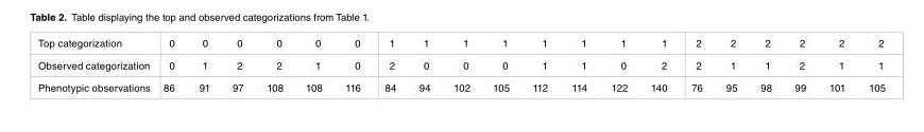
<table><tbody><tr><td>Top categorization</td><td>0</td><td>0</td><td>0</td><td>0</td><td>0</td><td>0</td><td>1</td><td>1</td><td>1</td><td>1</td><td>1</td><td>1</td><td>1</td><td>1</td><td>2</td><td>2</td><td>2</td><td>2</td><td>2</td><td>2</td></tr><tr><td>Observed categorization</td><td>0</td><td>1</td><td>2</td><td>2</td><td>1</td><td>0</td><td>2</td><td>0</td><td>0</td><td>0</td><td>1</td><td>1</td><td>0</td><td>2</td><td>2</td><td>1</td><td>1</td><td>2</td><td>1</td><td>1</td></tr><tr><td>Phenotypic observations</td><td>86</td><td>91</td><td>97</td><td>108</td><td>108</td><td>116</td><td>84</td><td>94</td><td>102</td><td>105</td><td>112</td><td>114</td><td>122</td><td>140</td><td>76</td><td>95</td><td>98</td><td>99</td><td>101</td><td>105</td></tr></tbody></table>